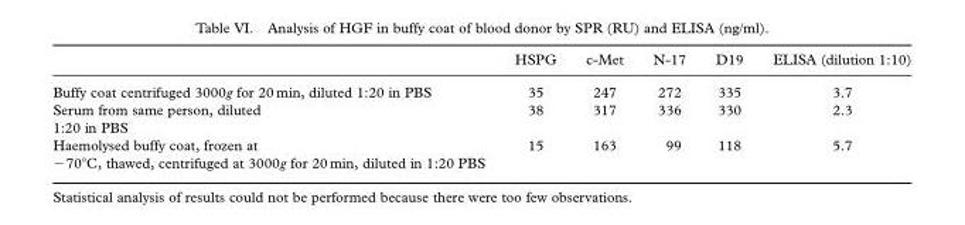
<table><thead><tr><td></td><td>HSPG</td><td>c-Met</td><td>N-17</td><td>D19</td><td>ELISA (dilution 1:10)</td></tr></thead><tbody><tr><td>Buffy coat centrifuged 3000g for 20 min, diluted 1:20 in PBS</td><td>35</td><td>247</td><td>272</td><td>335</td><td>3.7</td></tr><tr><td>Serum from same person, diluted 1:20 in PBS</td><td>38</td><td>317</td><td>336</td><td>330</td><td>2.3</td></tr><tr><td>Haemolysed buffy coat, frozen at 2708C, thawed, centrifuged at 3000g for 20 min, diluted in 1:20 PBS</td><td>15</td><td>163</td><td>99</td><td>118</td><td>5.7</td></tr></tbody></table>